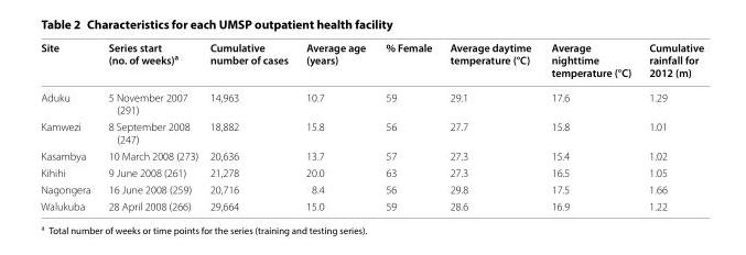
<table><thead><tr><td>Site</td><td>Series start (no. of weeks)<sup>a</sup></td><td>Cumulative number of cases</td><td>Average age (years)</td><td>% Female</td><td>Average daytime temperature (°C)</td><td>Average nighttime temperature (°C)</td><td>Cumulative rainfall for 2012 (m)</td></tr></thead><tbody><tr><td>Aduku</td><td>5 November 2007 (291)</td><td>14,963</td><td>10.7</td><td>59</td><td>29.1</td><td>17.6</td><td>1.29</td></tr><tr><td>Kamwezi</td><td>8 September 2008 (247)</td><td>18,882</td><td>15.8</td><td>56</td><td>27.7</td><td>15.8</td><td>1.01</td></tr><tr><td>Kasambya</td><td>10 March 2008 (273)</td><td>20,636</td><td>13.7</td><td>57</td><td>27.3</td><td>15.4</td><td>1.02</td></tr><tr><td>Kihihi</td><td>9 June 2008 (261)</td><td>21,278</td><td>20.0</td><td>63</td><td>27.3</td><td>16.5</td><td>1.05</td></tr><tr><td>Nagongera</td><td>16 June 2008 (259)</td><td>20,716</td><td>8.4</td><td>56</td><td>29.8</td><td>17.5</td><td>1.66</td></tr><tr><td>Walukuba</td><td>28 April 2008 (266)</td><td>29,664</td><td>15.0</td><td>59</td><td>28.6</td><td>16.9</td><td>1.22</td></tr></tbody></table>